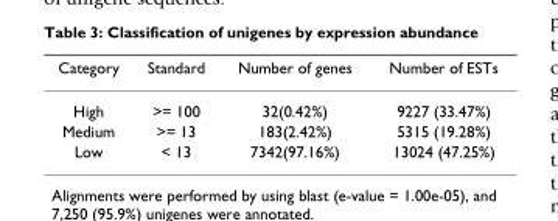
<table><thead><tr><td>Category</td><td>Standard</td><td>Number of genes</td><td>Number of ESTs</td></tr></thead><tbody><tr><td>High</td><td>&gt;= 100</td><td>32(0.42%)</td><td>9227 (33.47%)</td></tr><tr><td>Medium</td><td>&gt;= 13</td><td>183(2.42%)</td><td>5315 (19.28%)</td></tr><tr><td>Low</td><td>&lt; 13</td><td>7342(97.16%)</td><td>13024 (47.25%)</td></tr></tbody></table>